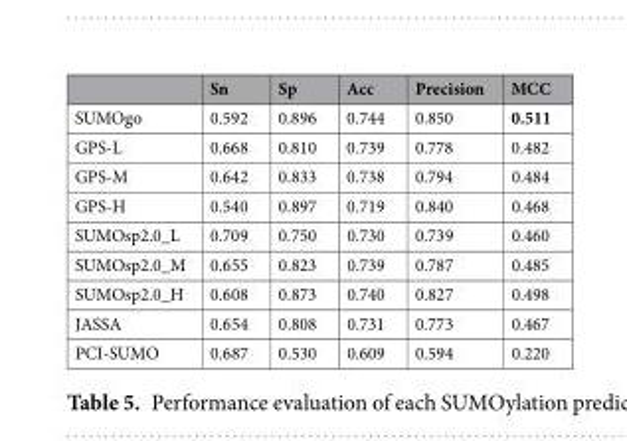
<table><thead><tr><td></td><td>Sn</td><td>Sp</td><td>Acc</td><td>Precision</td><td>MCC</td></tr></thead><tbody><tr><td>SUMOgo</td><td>0.592</td><td>0.896</td><td>0.744</td><td>0.850</td><td>0.511</td></tr><tr><td>GPS-L</td><td>0.668</td><td>0.810</td><td>0.739</td><td>0.778</td><td>0.482</td></tr><tr><td>GPS-M</td><td>0.642</td><td>0.833</td><td>0.738</td><td>0.794</td><td>0.484</td></tr><tr><td>GPS-H</td><td>0.540</td><td>0.897</td><td>0.719</td><td>0.840</td><td>0.468</td></tr><tr><td>SUMOsp2.0_L</td><td>0.709</td><td>0.750</td><td>0.730</td><td>0.739</td><td>0.460</td></tr><tr><td>SUMOsp2.0_M</td><td>0.655</td><td>0.823</td><td>0.739</td><td>0.787</td><td>0.485</td></tr><tr><td>SUMOsp2.0_H</td><td>0.608</td><td>0.873</td><td>0.740</td><td>0.827</td><td>0.498</td></tr><tr><td>JASSA</td><td>0.654</td><td>0.808</td><td>0.731</td><td>0.773</td><td>0.467</td></tr><tr><td>PCI-SUMO</td><td>0.687</td><td>0.530</td><td>0.609</td><td>0.594</td><td>0.220</td></tr></tbody></table>